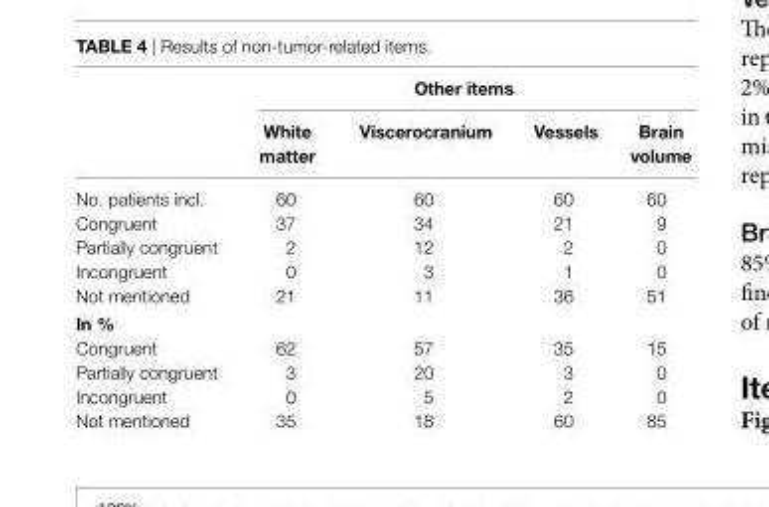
<table><thead><tr><td rowspan="2"></td><td colspan="4">Other items</td></tr><tr><td>White matter</td><td>Viscerocranium</td><td>Vessels</td><td>brain volume</td></tr></thead><tbody><tr><td>No. patients incl.</td><td>60</td><td>60</td><td>60</td><td>60</td></tr><tr><td>Congruent</td><td>37</td><td>34</td><td>21</td><td>9</td></tr><tr><td>Partially congruent</td><td>2</td><td>12</td><td>2</td><td>0</td></tr><tr><td>Incongruent</td><td>0</td><td>3</td><td>1</td><td>0</td></tr><tr><td>Not mentioned</td><td>21</td><td>11</td><td>36</td><td>51</td></tr><tr><td colspan="5">in %</td></tr><tr><td>Congruent</td><td>62</td><td>57</td><td>35</td><td>15</td></tr><tr><td>Partially congruent</td><td>3</td><td>20</td><td>3</td><td>0</td></tr><tr><td>Incongruent</td><td>0</td><td>5</td><td>2</td><td>0</td></tr><tr><td>Not mentioned</td><td>35</td><td>18</td><td>60</td><td>85</td></tr></tbody></table>